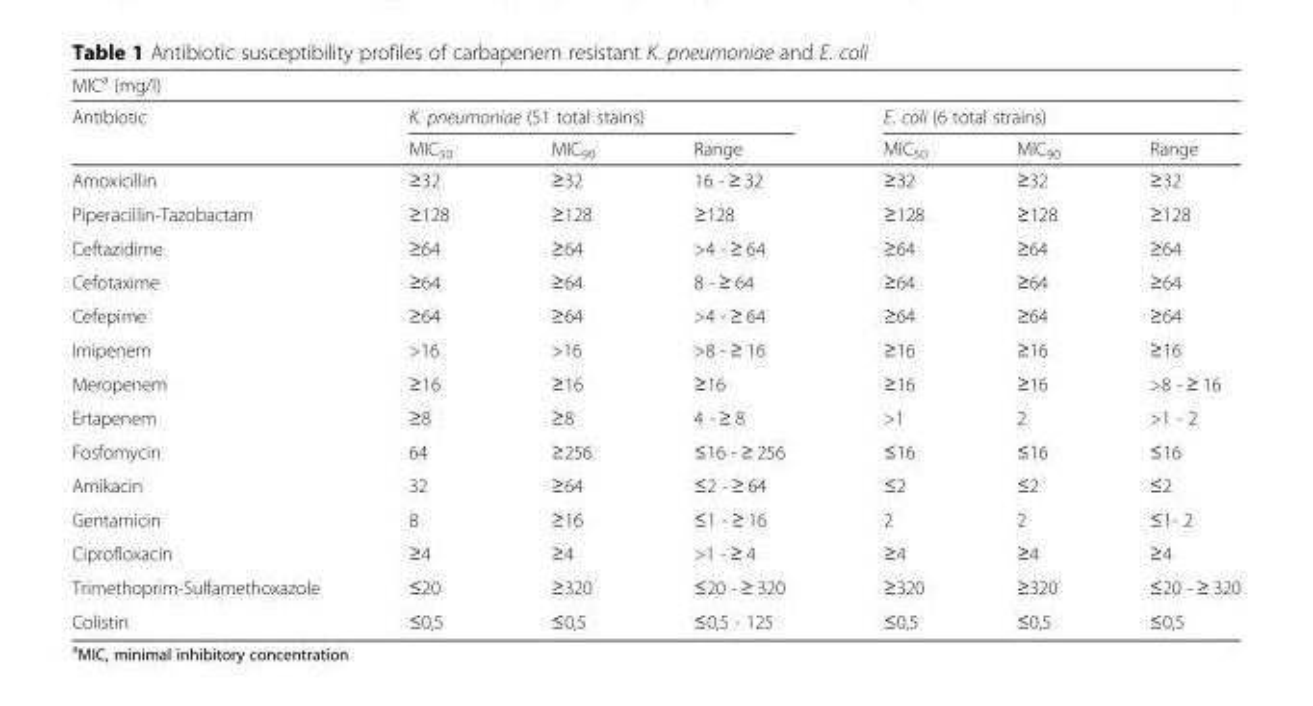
<table><thead><tr><td colspan="7">MIC<sup>a</sup> (mg/l)</td></tr><tr><td rowspan="2">Antibiotic</td><td colspan="3">K. pneumoniae (51 total stains)</td><td colspan="3">E. coli (6 total strains)</td></tr><tr><td>MIC<sub>50</sub></td><td>MIC<sub>90</sub></td><td>Range</td><td>MIC<sub>50</sub></td><td>MIC<sub>90</sub></td><td>Range</td></tr></thead><tbody><tr><td>Amoxicillin</td><td>≥32</td><td>≥32</td><td>16 - ≥ 32</td><td>≥32</td><td>≥32</td><td>≥32</td></tr><tr><td>Piperacillin-Tazobactam</td><td>≥128</td><td>≥128</td><td>≥128</td><td>≥128</td><td>≥128</td><td>≥128</td></tr><tr><td>Ceftazidime</td><td>≥64</td><td>≥64</td><td>&gt;4 - ≥ 64</td><td>≥64</td><td>≥64</td><td>≥64</td></tr><tr><td>Cefotaxime</td><td>≥64</td><td>≥64</td><td>8 - ≥ 64</td><td>≥64</td><td>≥64</td><td>≥64</td></tr><tr><td>Cefepime</td><td>≥64</td><td>≥64</td><td>&gt;4 - ≥ 64</td><td>≥64</td><td>≥64</td><td>≥64</td></tr><tr><td>Imipenem</td><td>&gt;16</td><td>&gt;16</td><td>&gt;8 - ≥ 16</td><td>≥16</td><td>≥16</td><td>≥16</td></tr><tr><td>Meropenem</td><td>≥16</td><td>≥16</td><td>≥16</td><td>≥16</td><td>≥16</td><td>&gt;8 - ≥ 16</td></tr><tr><td>Ertapenem</td><td>≥8</td><td>≥8</td><td>4 - ≥ 8</td><td>&gt;1</td><td>2</td><td>&gt;1 - 2</td></tr><tr><td>Fosfomycin</td><td>64</td><td>≥256</td><td>≤16 - ≥ 256</td><td>≤16</td><td>≤16</td><td>≤16</td></tr><tr><td>Amikacin</td><td>32</td><td>≥64</td><td>≤2 - ≥ 64</td><td>≤2</td><td>≤2</td><td>≤2</td></tr><tr><td>Gentamicin</td><td>8</td><td>≥16</td><td>≤1 - ≥ 16</td><td>2</td><td>2</td><td>≤1- 2</td></tr><tr><td>Ciprofloxacin</td><td>≥4</td><td>≥4</td><td>&gt;1 - ≥ 4</td><td>≥4</td><td>≥4</td><td>≥4</td></tr><tr><td>Trimethoprim-Sulfamethoxazole</td><td>≤20</td><td>≥320</td><td>≤20 - ≥ 320</td><td>≥320</td><td>≥320</td><td>≤20 - ≥ 320</td></tr><tr><td>Colistin</td><td>≤0,5</td><td>≤0,5</td><td>≤0,5 - 125</td><td>≤0,5</td><td>≤0,5</td><td>≤0,5</td></tr></tbody></table>